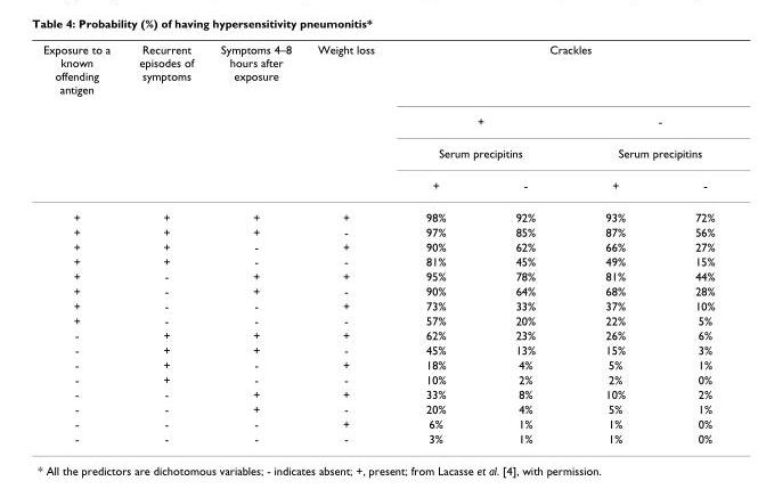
<table><thead><tr><td rowspan="4">Exposure to a known offending antigen</td><td rowspan="4">Recurrent episodes of symptoms</td><td rowspan="4">Symptoms 4–8 hours after exposure</td><td rowspan="4">Weight loss</td><td colspan="4">Crackles</td></tr><tr><td rowspan="2" colspan="2">+ Serum precipitins</td><td rowspan="2" colspan="2">- Serum precipitins</td></tr><tr></tr><tr><td>+</td><td>-</td><td>+</td><td>-</td></tr></thead><tbody><tr><td>+</td><td>+</td><td>+</td><td>+</td><td>98%</td><td>92%</td><td>93%</td><td>72%</td></tr><tr><td>+</td><td>+</td><td>+</td><td>-</td><td>97%</td><td>85%</td><td>87%</td><td>56%</td></tr><tr><td>+</td><td>+</td><td>-</td><td>+</td><td>90%</td><td>62%</td><td>66%</td><td>27%</td></tr><tr><td>+</td><td>+</td><td>-</td><td>-</td><td>81%</td><td>45%</td><td>49%</td><td>15%</td></tr><tr><td>+</td><td>-</td><td>+</td><td>+</td><td>95%</td><td>78%</td><td>81%</td><td>44%</td></tr><tr><td>+</td><td>-</td><td>+</td><td>-</td><td>90%</td><td>64%</td><td>68%</td><td>28%</td></tr><tr><td>+</td><td>-</td><td>-</td><td>+</td><td>73%</td><td>33%</td><td>37%</td><td>10%</td></tr><tr><td>+</td><td>-</td><td>-</td><td>-</td><td>57%</td><td>20%</td><td>22%</td><td>5%</td></tr><tr><td>-</td><td>+</td><td>+</td><td>+</td><td>62%</td><td>23%</td><td>26%</td><td>6%</td></tr><tr><td>-</td><td>+</td><td>+</td><td>-</td><td>45%</td><td>13%</td><td>15%</td><td>3%</td></tr><tr><td>-</td><td>+</td><td>-</td><td>+</td><td>18%</td><td>4%</td><td>5%</td><td>1%</td></tr><tr><td>-</td><td>+</td><td>-</td><td>-</td><td>10%</td><td>2%</td><td>2%</td><td>0%</td></tr><tr><td>-</td><td>-</td><td>+</td><td>+</td><td>33%</td><td>8%</td><td>10%</td><td>2%</td></tr><tr><td>-</td><td>-</td><td>+</td><td>-</td><td>20%</td><td>4%</td><td>5%</td><td>1%</td></tr><tr><td>-</td><td>-</td><td>-</td><td>+</td><td>6%</td><td>1%</td><td>1%</td><td>0%</td></tr><tr><td>-</td><td>-</td><td>-</td><td>-</td><td>3%</td><td>1%</td><td>1%</td><td>0%</td></tr></tbody></table>